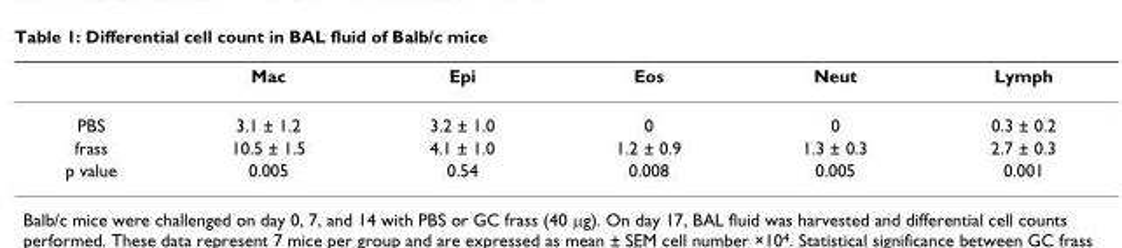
<table><thead><tr><td></td><td>Mac</td><td>Epi</td><td>Eos</td><td>Neut</td><td>Lymph</td></tr></thead><tbody><tr><td>PBS</td><td>3.1 ± 1.2</td><td>3.2 ± 1.0</td><td>0</td><td>0</td><td>0.3 ± 0.2</td></tr><tr><td>frass</td><td>10.5 ± 1.5</td><td>4.1 ± 1.0</td><td>1.2 ± 0.9</td><td>1.3 ± 0.3</td><td>2.7 ± 0.3</td></tr><tr><td>p value</td><td>0.005</td><td>0.54</td><td>0.008</td><td>0.005</td><td>0.001</td></tr></tbody></table>